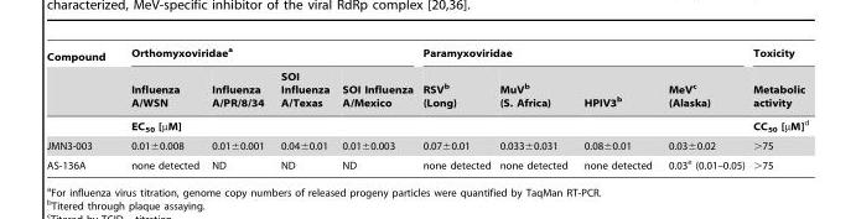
<table><thead><tr><td rowspan="2">Compound</td><td colspan="4">Orthomyxoviridae<sup>a</sup></td><td colspan="4">Paramyxoviridae</td><td rowspan="2">Toxicity Metabolic activity</td></tr><tr><td>Influenza A/WSN</td><td>Influenza A/PR/8/34</td><td>SOI Influenza A/Texas</td><td>SOI Influenza A/Mexico</td><td>RSV<sup>b</sup> (Long)</td><td>MuV<sup>b</sup> (S. Africa)</td><td>HPIV3<sup>b</sup></td><td>MeV<sup>c</sup> (Alaska)</td></tr></thead><tbody><tr><td></td><td colspan="8">EC<sub>50</sub> [µM]</td><td>CC<sub>50</sub> [µM]d</td></tr><tr><td>JMN3-003</td><td>0.01±0.008</td><td>0.01±0.001</td><td>0.04±0.01</td><td>0.01±0.003</td><td>0.07±0.01</td><td>0.033±0.031</td><td>0.08±0.01</td><td>0.03±0.02</td><td>&gt;75</td></tr><tr><td>AS-136A</td><td>none detected</td><td>ND</td><td>ND</td><td>ND</td><td>none detected</td><td>none detected</td><td>none detected</td><td>0.03<sup>e</sup> (0.01–0.05)</td><td>&gt;75</td></tr></tbody></table>